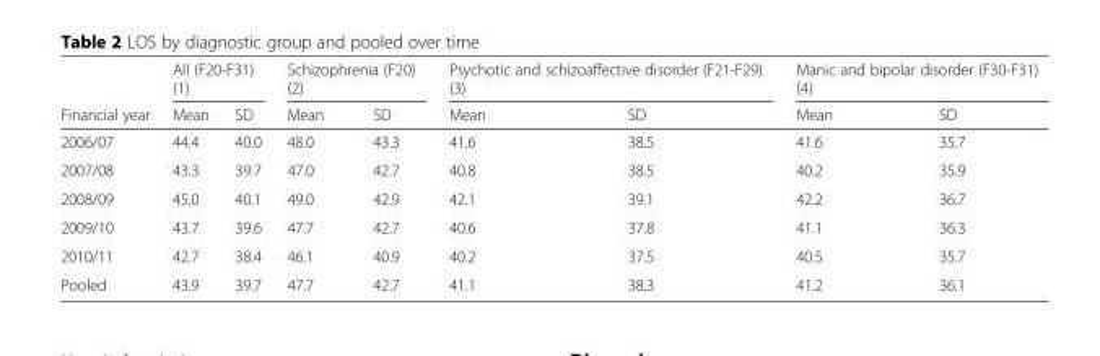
<table><thead><tr><td rowspan="2">Financial year</td><td colspan="2">All (F20-F31) (1)</td><td colspan="2">Schizophrenia (F20) (2)</td><td colspan="2">Psychotic and schizoaffective disorder (F21-F29) (3)</td><td colspan="2">Manic and bipolar disorder (F30-F31) (4)</td></tr><tr><td>Mean</td><td>SD</td><td>Mean</td><td>SD</td><td>Mean</td><td>SD</td><td>Mean</td><td>SD</td></tr></thead><tbody><tr><td>2006/07</td><td>44.4</td><td>40.0</td><td>48.0</td><td>43.3</td><td>41.6</td><td>38.5</td><td>41.6</td><td>35.7</td></tr><tr><td>2007/08</td><td>43.3</td><td>39.7</td><td>47.0</td><td>42.7</td><td>40.8</td><td>38.5</td><td>40.2</td><td>35.9</td></tr><tr><td>2008/09</td><td>45.0</td><td>40.1</td><td>49.0</td><td>42.9</td><td>42.1</td><td>39.1</td><td>42.2</td><td>36.7</td></tr><tr><td>2009/10</td><td>43.7</td><td>39.6</td><td>47.7</td><td>42.7</td><td>40.6</td><td>37.8</td><td>41.1</td><td>36.3</td></tr><tr><td>2010/11</td><td>42.7</td><td>38.4</td><td>46.1</td><td>40.9</td><td>40.2</td><td>37.5</td><td>40.5</td><td>35.7</td></tr><tr><td>Pooled</td><td>43.9</td><td>39.7</td><td>47.7</td><td>42.7</td><td>41.1</td><td>38.3</td><td>41.2</td><td>36.1</td></tr></tbody></table>